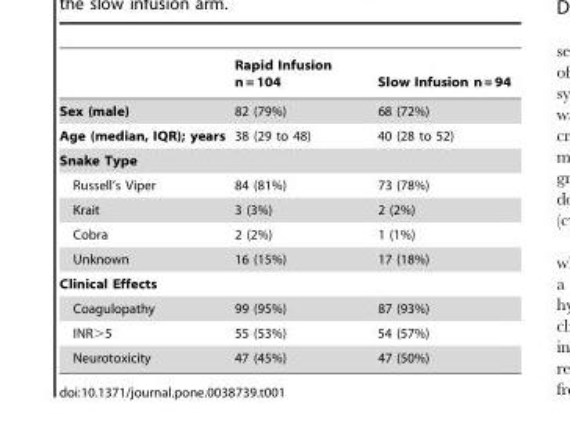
<table><thead><tr><td></td><td>Rapid Infusion n = 104</td><td>Slow Infusion n = 94</td></tr></thead><tbody><tr><td>Sex (male)</td><td>82 (79%)</td><td>68 (72%)</td></tr><tr><td>Age (median, IQR); years</td><td>38 (29 to 48)</td><td>40 (28 to 52)</td></tr><tr><td colspan="3">Snake Type</td></tr><tr><td>Russell’s Viper</td><td>84 (81%)</td><td>73 (78%)</td></tr><tr><td>Krait</td><td>3 (3%)</td><td>2 (2%)</td></tr><tr><td>Cobra</td><td>2 (2%)</td><td>1 (1%)</td></tr><tr><td>Unknown</td><td>16 (15%)</td><td>17 (18%)</td></tr><tr><td colspan="3">Clinical Effects</td></tr><tr><td>Coagulopathy</td><td>99 (95%)</td><td>87 (93%)</td></tr><tr><td>INR&gt;5</td><td>55 (53%)</td><td>54 (57%)</td></tr><tr><td>Neurotoxicity</td><td>47 (45%)</td><td>47 (50%)</td></tr></tbody></table>